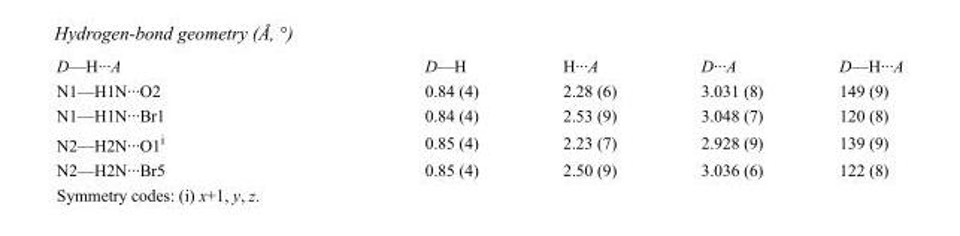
<table><tbody><tr><td>D—H···A</td><td>D—H</td><td>H···A</td><td>D···A</td><td>D—H···A</td></tr><tr><td>N1—H1N···O2</td><td>0.84 (4)</td><td>2.28 (6)</td><td>3.031 (8)</td><td>149 (9)</td></tr><tr><td>N1—H1N···Br1</td><td>0.84 (4)</td><td>2.53 (9)</td><td>3.048 (7)</td><td>120 (8)</td></tr><tr><td>N2—H2N···O1<sup>i</sup></td><td>0.85 (4)</td><td>2.23 (7)</td><td>2.928 (9)</td><td>139 (9)</td></tr><tr><td>N2—H2N···Br5</td><td>0.85 (4)</td><td>2.50 (9)</td><td>3.036 (6)</td><td>122 (8)</td></tr></tbody></table>